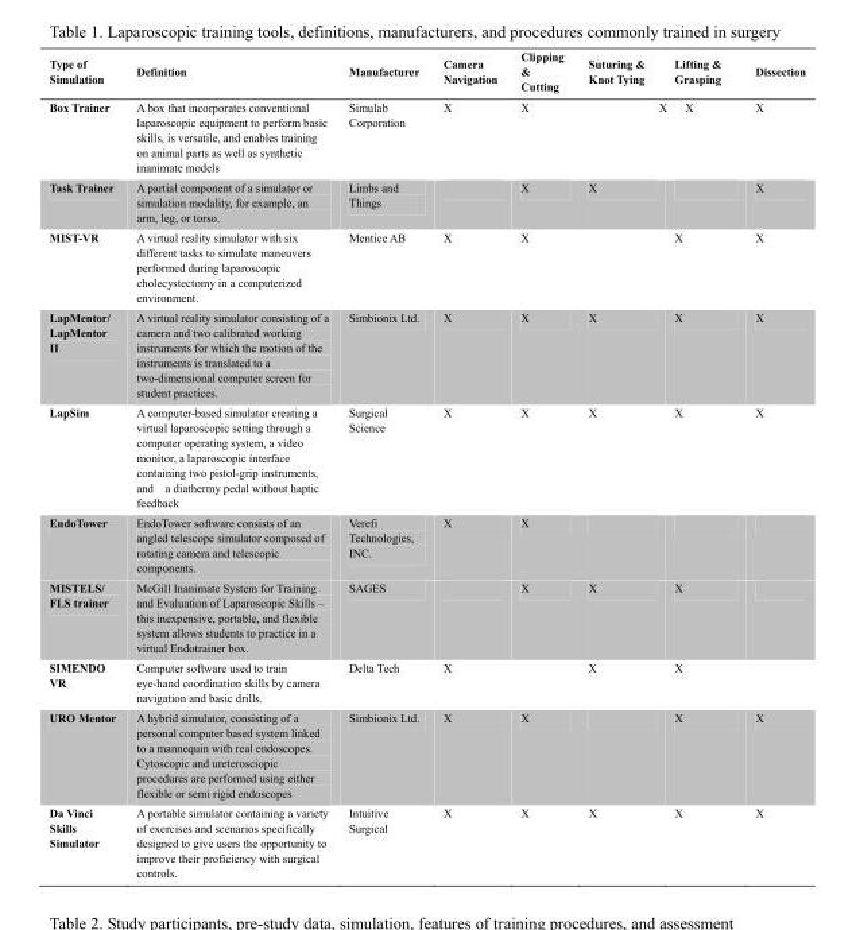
<table><thead><tr><td>Type of Simulation</td><td>Definition</td><td>Manufacturer</td><td>Camera Navigation</td><td>Clipping &amp; Cutting</td><td>Suturing &amp; Knot Tying</td><td>Lifting &amp; Grasping</td><td>Dissection</td></tr></thead><tbody><tr><td>Box Trainer</td><td>A box that incorporates conventional laparoscopic equipment to perform basic skills, is versatile, and enables training on animal parts as well as synthetic inanimate models</td><td>Simulab Corporation</td><td>X</td><td>X</td><td>X</td><td>X</td><td>X</td></tr><tr><td>Task Trainer</td><td>A partial component of a simulator or simulation modality, for example, an arm, leg, or torso.</td><td>Limbs and Things</td><td></td><td>X</td><td>X</td><td></td><td>X</td></tr><tr><td>MIST-VR</td><td>A virtual reality simulator with six different tasks to simulate maneuvers performed during laparoscopic cholecystectomy in a computerized environment.</td><td>Mentice AB</td><td>X</td><td>X</td><td></td><td>X</td><td>X</td></tr><tr><td>LapMentor/ LapMentor II</td><td>A virtual reality simulator consisting of a camera and two calibrated working instruments for which the motion of the instruments is translated to a two-dimensional computer screen for student practices.</td><td>Simbionix Ltd.</td><td>X</td><td>X</td><td>X</td><td>X</td><td>X</td></tr><tr><td>LapSim</td><td>A computer-based simulator creating a virtual laparoscopic setting through a computer operating system, a video monitor, a laparoscopic interface containing two pistol-grip instruments, and a diathermy pedal without haptic feedback</td><td>Surgical Science</td><td>X</td><td>X</td><td>X</td><td>X</td><td>X</td></tr><tr><td>EndoTower</td><td>EndoTower software consists of an angled telescope simulator composed of rotating camera and telescopic components.</td><td>Verefi Technologies, INC.</td><td>X</td><td>X</td><td></td><td></td><td></td></tr><tr><td>MISTELS/ FLS trainer</td><td>McGill Inanimate System for Training and Evaluation of Laparoscopic Skills – this inexpensive, portable, and flexible system allows students to practice in a virtual Endotrainer box.</td><td>SAGES</td><td></td><td>X</td><td>X</td><td>X</td><td></td></tr><tr><td>SIMENDO VR</td><td>Computer software used to train eye-hand coordination skills by camera navigation and basic drills.</td><td>Delta Tech</td><td>X</td><td></td><td>X</td><td>X</td><td></td></tr><tr><td>URO Mentor</td><td>A hybrid simulator, consisting of a personal computer based system linked to a mannequin with real endoscopes. Cytoscopic and ureterosciopic procedures are performed using either flexible or semi rigid endoscopes</td><td>Simbionix Ltd.</td><td>X</td><td>X</td><td></td><td>X</td><td>X</td></tr><tr><td>Da Vinci Skills Simulator</td><td>A portable simulator containing a variety of exercises and scenarios specifically designed to give users the opportunity to improve their proficiency with surgical controls.</td><td>Intuitive Surgical</td><td>X</td><td>X</td><td>X</td><td>X</td><td>X</td></tr></tbody></table>